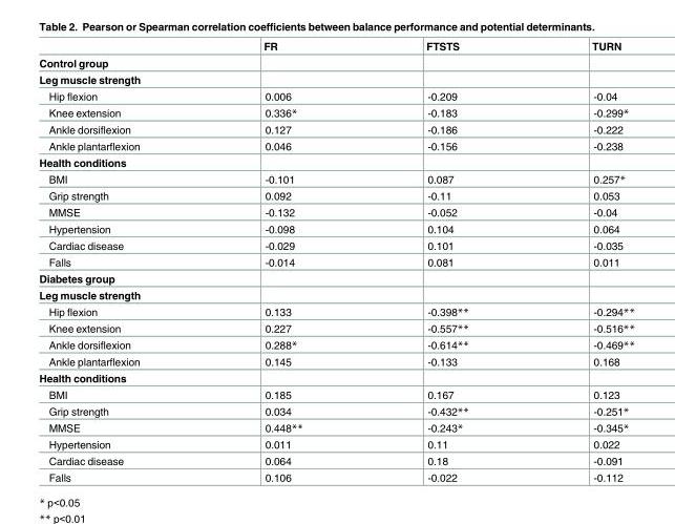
<table><thead><tr><td></td><td>FR</td><td>FTSTS</td><td>TURN</td></tr></thead><tbody><tr><td colspan="4">Control group</td></tr><tr><td colspan="4">Leg muscle strength</td></tr><tr><td>Hip flexion</td><td>0.006</td><td>-0.209</td><td>-0.04</td></tr><tr><td>Knee extension</td><td>0.336*</td><td>-0.183</td><td>-0.299*</td></tr><tr><td>Ankle dorsiflexion</td><td>0.127</td><td>-0.186</td><td>-0.222</td></tr><tr><td>Ankle plantarflexion</td><td>0.046</td><td>-0.156</td><td>-0.238</td></tr><tr><td colspan="4">Health conditions</td></tr><tr><td>BMI</td><td>-0.101</td><td>0.087</td><td>0.257*</td></tr><tr><td>Grip strength</td><td>0.092</td><td>-0.11</td><td>0.053</td></tr><tr><td>MMSE</td><td>-0.132</td><td>-0.052</td><td>-0.04</td></tr><tr><td>Hypertension</td><td>-0.098</td><td>0.104</td><td>0.064</td></tr><tr><td>Cardiac disease</td><td>-0.029</td><td>0.101</td><td>-0.035</td></tr><tr><td>Falls</td><td>-0.014</td><td>0.081</td><td>0.011</td></tr><tr><td colspan="4">Diabetes group</td></tr><tr><td colspan="4">Leg muscle strength</td></tr><tr><td>Hip flexion</td><td>0.133</td><td>-0.398**</td><td>-0.294**</td></tr><tr><td>Knee extension</td><td>0.227</td><td>-0.557**</td><td>-0.516**</td></tr><tr><td>Ankle dorsiflexion</td><td>0.288*</td><td>-0.614**</td><td>-0.469**</td></tr><tr><td>Ankle plantarflexion</td><td>0.145</td><td>-0.133</td><td>0.168</td></tr><tr><td colspan="4">Health conditions</td></tr><tr><td>BMI</td><td>0.185</td><td>0.167</td><td>0.123</td></tr><tr><td>Grip strength</td><td>0.034</td><td>-0.432**</td><td>-0.251*</td></tr><tr><td>MMSE</td><td>0.448**</td><td>-0.243*</td><td>-0.345*</td></tr><tr><td>Hypertension</td><td>0.011</td><td>0.11</td><td>0.022</td></tr><tr><td>Cardiac disease</td><td>0.064</td><td>0.18</td><td>-0.091</td></tr><tr><td>Falls</td><td>0.106</td><td>-0.022</td><td>-0.112</td></tr></tbody></table>